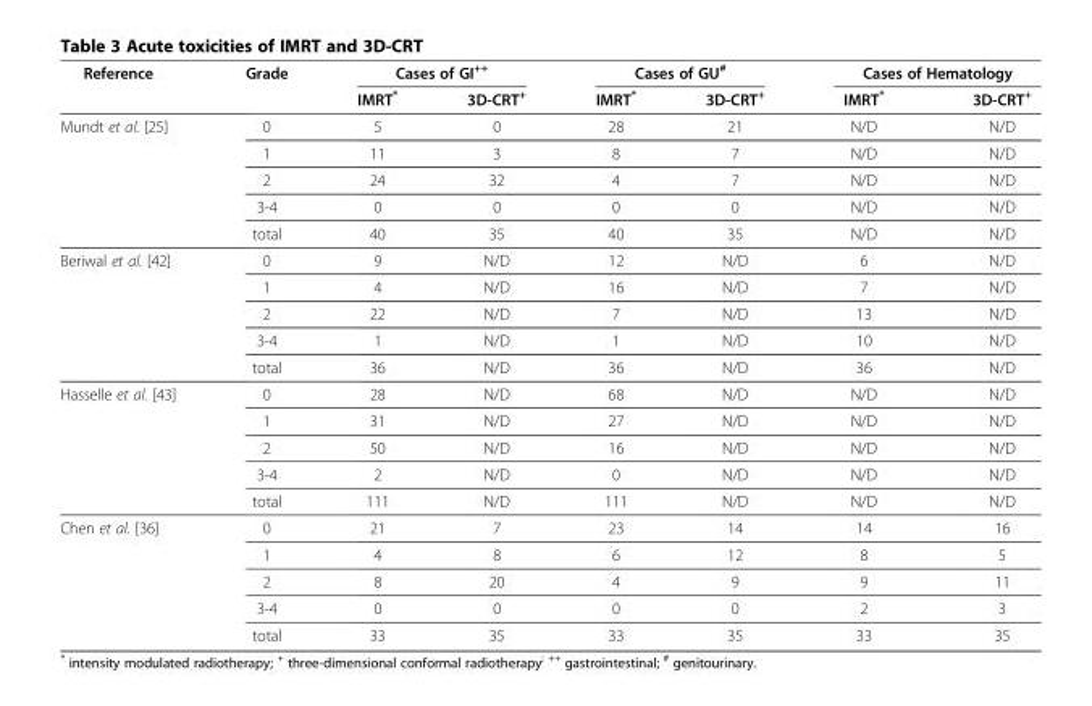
<table><thead><tr><td rowspan="2">Reference</td><td rowspan="2">Grade</td><td colspan="2">Cases of GI<sup>++</sup></td><td colspan="2">Cases of GU<sup>#</sup></td><td colspan="2">Cases of Hematology</td></tr><tr><td>IMRT*</td><td>3D-CRT<sup>+</sup></td><td>IMRT*</td><td>3D-CRT<sup>+</sup></td><td>IMRT*</td><td>3D-CRT<sup>+</sup></td></tr></thead><tbody><tr><td rowspan="5">Mundt et al. [25]</td><td>0</td><td>5</td><td>0</td><td>28</td><td>21</td><td>N/D</td><td>N/D</td></tr><tr><td>1</td><td>11</td><td>3</td><td>8</td><td>7</td><td>N/D</td><td>N/D</td></tr><tr><td>2</td><td>24</td><td>32</td><td>4</td><td>7</td><td>N/D</td><td>N/D</td></tr><tr><td>3-4</td><td>0</td><td>0</td><td>0</td><td>0</td><td>N/D</td><td>N/D</td></tr><tr><td>total</td><td>40</td><td>35</td><td>40</td><td>35</td><td>N/D</td><td>N/D</td></tr><tr><td rowspan="5">Beriwal et al. [42]</td><td>0</td><td>9</td><td>N/D</td><td>12</td><td>N/D</td><td>6</td><td>N/D</td></tr><tr><td>1</td><td>4</td><td>N/D</td><td>16</td><td>N/D</td><td>7</td><td>N/D</td></tr><tr><td>2</td><td>22</td><td>N/D</td><td>7</td><td>N/D</td><td>13</td><td>N/D</td></tr><tr><td>3-4</td><td>1</td><td>N/D</td><td>1</td><td>N/D</td><td>10</td><td>N/D</td></tr><tr><td>total</td><td>36</td><td>N/D</td><td>36</td><td>N/D</td><td>36</td><td>N/D</td></tr><tr><td rowspan="5">Hasselle et al. [43]</td><td>0</td><td>28</td><td>N/D</td><td>68</td><td>N/D</td><td>N/D</td><td>N/D</td></tr><tr><td>1</td><td>31</td><td>N/D</td><td>27</td><td>N/D</td><td>N/D</td><td>N/D</td></tr><tr><td>2</td><td>50</td><td>N/D</td><td>16</td><td>N/D</td><td>N/D</td><td>N/D</td></tr><tr><td>3-4</td><td>2</td><td>N/D</td><td>0</td><td>N/D</td><td>N/D</td><td>N/D</td></tr><tr><td>total</td><td>111</td><td>N/D</td><td>111</td><td>N/D</td><td>N/D</td><td>N/D</td></tr><tr><td rowspan="5">Chen et al. [36]</td><td>0</td><td>21</td><td>7</td><td>23</td><td>14</td><td>14</td><td>16</td></tr><tr><td>1</td><td>4</td><td>8</td><td>6</td><td>12</td><td>8</td><td>5</td></tr><tr><td>2</td><td>8</td><td>20</td><td>4</td><td>9</td><td>9</td><td>11</td></tr><tr><td>3-4</td><td>0</td><td>0</td><td>0</td><td>0</td><td>2</td><td>3</td></tr><tr><td>total</td><td>33</td><td>35</td><td>33</td><td>35</td><td>33</td><td>35</td></tr></tbody></table>